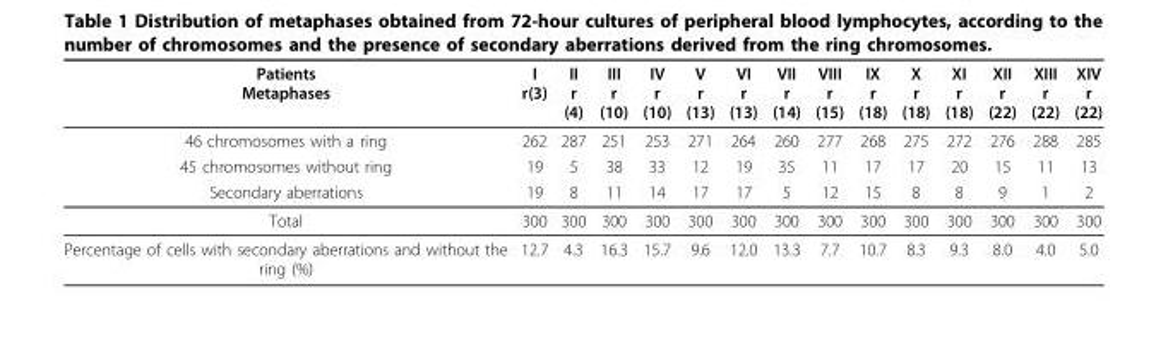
<table><thead><tr><td>Patients Metaphases</td><td>I r(3)</td><td>II r (4)</td><td>III r (10)</td><td>IV r (10)</td><td>V r (13)</td><td>VI r (13)</td><td>VII r (14)</td><td>VIII r (15)</td><td>IX r (18)</td><td>X r (18)</td><td>XI r (18)</td><td>XII r (22)</td><td>XIII r (22)</td><td>XIV r (22)</td></tr></thead><tbody><tr><td>46 chromosomes with a ring</td><td>262</td><td>287</td><td>251</td><td>253</td><td>271</td><td>264</td><td>260</td><td>277</td><td>268</td><td>275</td><td>272</td><td>276</td><td>288</td><td>285</td></tr><tr><td>45 chromosomes without ring</td><td>19</td><td>5</td><td>38</td><td>33</td><td>12</td><td>19</td><td>35</td><td>11</td><td>17</td><td>17</td><td>20</td><td>15</td><td>11</td><td>13</td></tr><tr><td>Secondary aberrations</td><td>19</td><td>8</td><td>11</td><td>14</td><td>17</td><td>17</td><td>5</td><td>12</td><td>15</td><td>8</td><td>8</td><td>9</td><td>1</td><td>2</td></tr><tr><td>Total</td><td>300</td><td>300</td><td>300</td><td>300</td><td>300</td><td>300</td><td>300</td><td>300</td><td>300</td><td>300</td><td>300</td><td>300</td><td>300</td><td>300</td></tr><tr><td>Percentage of cells with secondary aberrations and without the ring (%)</td><td>12.7</td><td>4.3</td><td>16.3</td><td>15.7</td><td>9.6</td><td>12.0</td><td>13.3</td><td>7.7</td><td>10.7</td><td>8.3</td><td>9.3</td><td>8.0</td><td>4.0</td><td>5.0</td></tr></tbody></table>